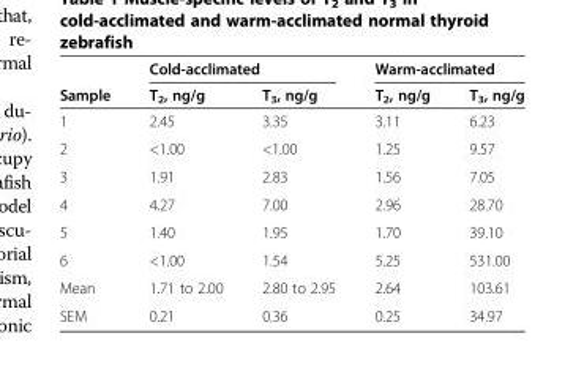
<table><thead><tr><td rowspan="2">Sample</td><td colspan="2">Cold-acclimated</td><td colspan="2">Warm-acclimated</td></tr><tr><td>T<sub>2</sub>, ng/g</td><td>T<sub>3</sub>, ng/g</td><td>T<sub>2</sub>, ng/g</td><td>T<sub>3</sub>, ng/g</td></tr></thead><tbody><tr><td>1</td><td>2.45</td><td>3.35</td><td>3.11</td><td>6.23</td></tr><tr><td>2</td><td>&lt;1.00</td><td>&lt;1.00</td><td>1.25</td><td>9.57</td></tr><tr><td>3</td><td>1.91</td><td>2.83</td><td>1.56</td><td>7.05</td></tr><tr><td>4</td><td>4.27</td><td>7.00</td><td>2.96</td><td>28.70</td></tr><tr><td>5</td><td>1.40</td><td>1.95</td><td>1.70</td><td>39.10</td></tr><tr><td>6</td><td>&lt;1.00</td><td>1.54</td><td>5.25</td><td>531.00</td></tr><tr><td>Mean</td><td>1.71 to 2.00</td><td>2.80 to 2.95</td><td>2.64</td><td>103.61</td></tr><tr><td>SEM</td><td>0.21</td><td>0.36</td><td>0.25</td><td>34.97</td></tr></tbody></table>